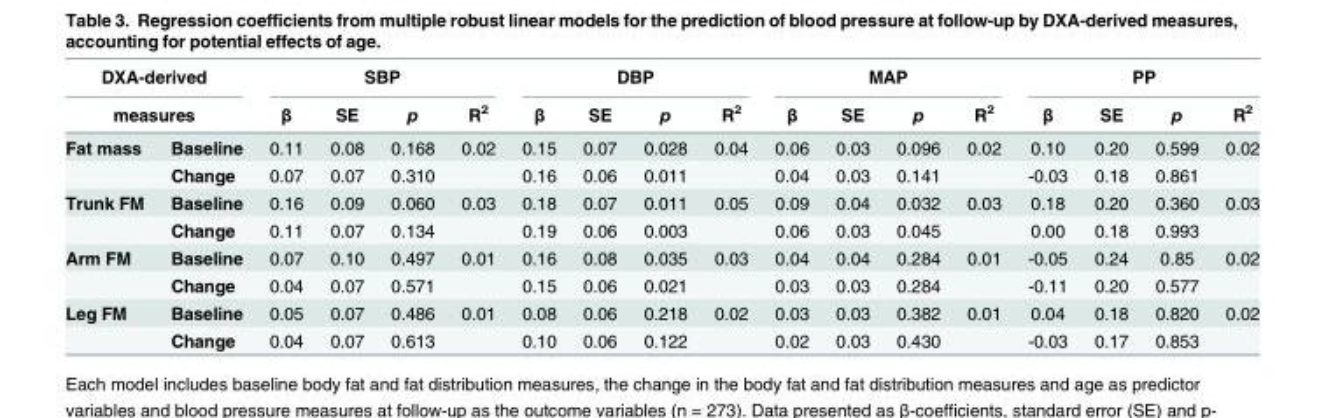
<table><thead><tr><td rowspan="2" colspan="2">DXA-derived measures</td><td colspan="4">SBP</td><td colspan="4">DBP</td><td colspan="4">MAP</td><td colspan="4">PP</td></tr><tr><td rowspan="2">β 0.11</td><td rowspan="2">SE 0.08</td><td rowspan="2">p 0.168</td><td rowspan="2">R<sup>2</sup> 0.02</td><td rowspan="2">β 0.15</td><td rowspan="2">SE 0.07</td><td rowspan="2">p 0.028</td><td rowspan="2">R<sup>2</sup> 0.04</td><td rowspan="2">β 0.06</td><td rowspan="2">SE 0.03</td><td rowspan="2">p 0.096</td><td rowspan="2">R<sup>2</sup> 0.02</td><td rowspan="2">β 0.10</td><td rowspan="2">SE 0.20</td><td rowspan="2">p 0.599</td><td rowspan="2">R<sup>2</sup> 0.02</td></tr><tr><td>Fat mass</td><td>Baseline</td></tr></thead><tbody><tr><td></td><td>Change</td><td>0.07</td><td>0.07</td><td>0.310</td><td></td><td>0.16</td><td>0.06</td><td>0.011</td><td></td><td>0.04</td><td>0.03</td><td>0.141</td><td></td><td>-0.03</td><td>0.18</td><td>0.861</td><td></td></tr><tr><td rowspan="2">Trunk FM</td><td>Baseline</td><td>0.16</td><td>0.09</td><td>0.060</td><td>0.03</td><td>0.18</td><td>0.07</td><td>0.011</td><td>0.05</td><td>0.09</td><td>0.04</td><td>0.032</td><td>0.03</td><td>0.18</td><td>0.20</td><td>0.360</td><td>0.03</td></tr><tr><td>Change</td><td>0.11</td><td>0.07</td><td>0.134</td><td></td><td>0.19</td><td>0.06</td><td>0.003</td><td></td><td>0.06</td><td>0.03</td><td>0.045</td><td></td><td>0.00</td><td>0.18</td><td>0.993</td><td></td></tr><tr><td rowspan="2">Arm FM</td><td>Baseline</td><td>0.07</td><td>0.10</td><td>0.497</td><td>0.01</td><td>0.16</td><td>0.08</td><td>0.035</td><td>0.03</td><td>0.04</td><td>0.04</td><td>0.284</td><td>0.01</td><td>-0.05</td><td>0.24</td><td>0.85</td><td>0.02</td></tr><tr><td>Change</td><td>0.04</td><td>0.07</td><td>0.571</td><td></td><td>0.15</td><td>0.06</td><td>0.021</td><td></td><td>0.03</td><td>0.03</td><td>0.284</td><td></td><td>-0.11</td><td>0.20</td><td>0.577</td><td></td></tr><tr><td rowspan="2">Leg FM</td><td>Baseline</td><td>0.05</td><td>0.07</td><td>0.486</td><td>0.01</td><td>0.08</td><td>0.06</td><td>0.218</td><td>0.02</td><td>0.03</td><td>0.03</td><td>0.382</td><td>0.01</td><td>0.04</td><td>0.18</td><td>0.820</td><td>0.02</td></tr><tr><td>Change</td><td>0.04</td><td>0.07</td><td>0.613</td><td></td><td>0.10</td><td>0.06</td><td>0.122</td><td></td><td>0.02</td><td>0.03</td><td>0.430</td><td></td><td>-0.03</td><td>0.17</td><td>0.853</td><td></td></tr></tbody></table>